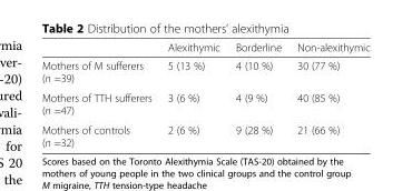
<table><thead><tr><td></td><td>Alexithymic</td><td>Borderline</td><td>Non-alexithymic</td></tr></thead><tbody><tr><td>Mothers of M sufferers (n =39)</td><td>5 (13 %)</td><td>4 (10 %)</td><td>30 (77 %)</td></tr><tr><td>Mothers of TTH sufferers (n =47)</td><td>3 (6 %)</td><td>4 (9 %)</td><td>40 (85 %)</td></tr><tr><td>Mothers of controls (n =32)</td><td>2 (6 %)</td><td>9 (28 %)</td><td>21 (66 %)</td></tr></tbody></table>